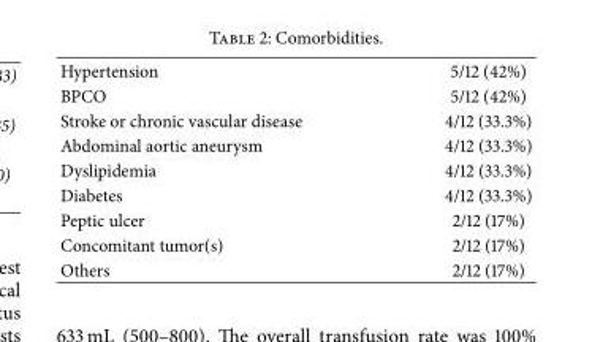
<table><tbody><tr><td>Hypertension</td><td>5/12 (42%)</td></tr><tr><td>BPCO</td><td>5/12 (42%)</td></tr><tr><td>Stroke or chronic vascular disease</td><td>4/12 (33.3%)</td></tr><tr><td>Abdominal aortic aneurysm</td><td>4/12 (33.3%)</td></tr><tr><td>Dyslipidemia</td><td>4/12 (33.3%)</td></tr><tr><td>Diabetes</td><td>4/12 (33.3%)</td></tr><tr><td>Peptic ulcer</td><td>2/12 (17%)</td></tr><tr><td>Concomitant tumor(s)</td><td>2/12 (17%)</td></tr><tr><td>Others</td><td>2/12 (17%)</td></tr></tbody></table>